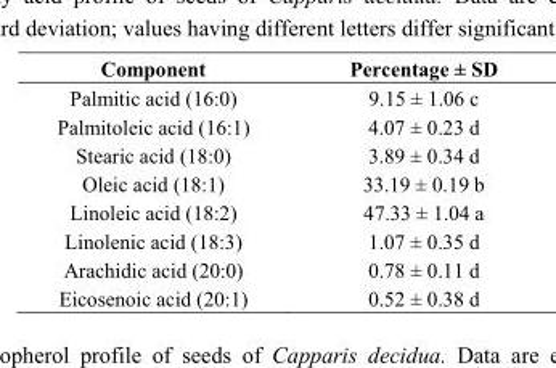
<table><thead><tr><td>Component</td><td>Percentage ± SD</td></tr></thead><tbody><tr><td>Palmitic acid (16:0)</td><td>9.15 ± 1.06 c</td></tr><tr><td>Palmitoleic acid (16:1)</td><td>4.07 ± 0.23 d</td></tr><tr><td>Stearic acid (18:0)</td><td>3.89 ± 0.34 d</td></tr><tr><td>Oleic acid (18:1)</td><td>33.19 ± 0.19 b</td></tr><tr><td>Linoleic acid (18:2)</td><td>47.33 ± 1.04 a</td></tr><tr><td>Linolenic acid (18:3)</td><td>1.07 ± 0.35 d</td></tr><tr><td>Arachidic acid (20:0)</td><td>0.78 ± 0.11 d</td></tr><tr><td>Eicosenoic acid (20:1)</td><td>0.52 ± 0.38 d</td></tr></tbody></table>